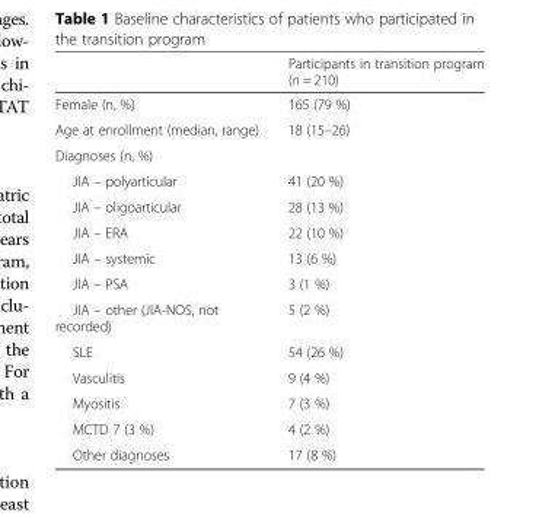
<table><thead><tr><td></td><td>Participants in transition program (n = 210)</td></tr></thead><tbody><tr><td>Female (n, %)</td><td>165 (79 %)</td></tr><tr><td>Age at enrollment (median, range)</td><td>18 (15–26)</td></tr><tr><td colspan="2">Diagnoses (n, %)</td></tr><tr><td>JIA – polyarticular</td><td>41 (20 %)</td></tr><tr><td>JIA – oligoarticular</td><td>28 (13 %)</td></tr><tr><td>JIA – ERA</td><td>22 (10 %)</td></tr><tr><td>JIA – systemic</td><td>13 (6 %)</td></tr><tr><td>JIA – PSA</td><td>3 (1 %)</td></tr><tr><td>JIA – other (JIA-NOS, not recorded)</td><td>5 (2 %)</td></tr><tr><td>SLE</td><td>54 (26 %)</td></tr><tr><td>Vasculitis</td><td>9 (4 %)</td></tr><tr><td>Myositis</td><td>7 (3 %)</td></tr><tr><td>MCTD 7 (3 %)</td><td>4 (2 %)</td></tr><tr><td>Other diagnoses</td><td>17 (8 %)</td></tr></tbody></table>